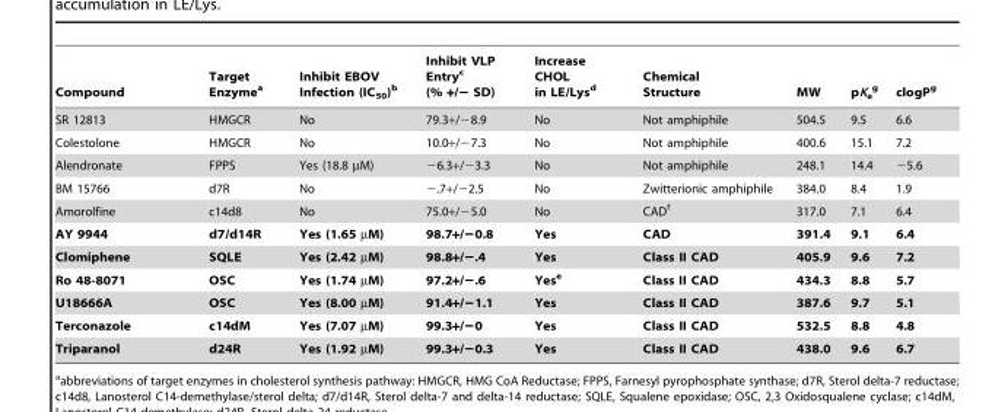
<table><thead><tr><td>Compound</td><td>Target Enzyme<sup>a</sup></td><td>Inhibit EBOV Infection (IC<sub>50</sub>)<sup>b</sup></td><td>Inhibit VLP Entry<sup>c</sup> (% +/− SD)</td><td>Increase CHOL in LE/Lys<sup>d</sup></td><td>Chemical Structure</td><td>MW</td><td>pK<sub>a</sub> g</td><td>clogP<sup>g</sup></td></tr></thead><tbody><tr><td>SR 12813</td><td>HMGCR</td><td>No</td><td>79.3+/−8.9</td><td>No</td><td>Not amphiphile</td><td>504.5</td><td>9.5</td><td>6.6</td></tr><tr><td>Colestolone</td><td>HMGCR</td><td>No</td><td>10.0+/−7.3</td><td>No</td><td>Not amphiphile</td><td>400.6</td><td>15.1</td><td>7.2</td></tr><tr><td>Alendronate</td><td>FPPS</td><td>Yes (18.8 µM)</td><td>−6.3+/−3.3</td><td>No</td><td>Not amphiphile</td><td>248.1</td><td>14.4</td><td>−5.6</td></tr><tr><td>BM 15766</td><td>d7R</td><td>No</td><td>−.7+/−2.5</td><td>No</td><td>Zwitterionic amphiphile</td><td>384.0</td><td>8.4</td><td>1.9</td></tr><tr><td>Amorolfine</td><td>c14d8</td><td>No</td><td>75.0+/−5.0</td><td>No</td><td>CAD<sup>f</sup></td><td>317.0</td><td>7.1</td><td>6.4</td></tr><tr><td>AY 9944</td><td>d7/d14R</td><td>Yes (1.65 µM)</td><td>98.7+/−0.8</td><td>Yes</td><td>CAD</td><td>391.4</td><td>9.1</td><td>6.4</td></tr><tr><td>Clomiphene</td><td>SQLE</td><td>Yes (2.42 µM)</td><td>98.8+/−.4</td><td>Yes</td><td>Class II CAD</td><td>405.9</td><td>9.6</td><td>7.2</td></tr><tr><td>Ro 48-8071</td><td>OSC</td><td>Yes (1.74 µM)</td><td>97.2+/−.6</td><td>Yese</td><td>Class II CAD</td><td>434.3</td><td>8.8</td><td>5.7</td></tr><tr><td>U18666A</td><td>OSC</td><td>Yes (8.00 µM)</td><td>91.4+/−1.1</td><td>Yes</td><td>Class II CAD</td><td>387.6</td><td>9.7</td><td>5.1</td></tr><tr><td>Terconazole</td><td>c14dM</td><td>Yes (7.07 µM)</td><td>99.3+/−0</td><td>Yes</td><td>Class II CAD</td><td>532.5</td><td>8.8</td><td>4.8</td></tr><tr><td>Triparanol</td><td>d24R</td><td>Yes (1.92 µM)</td><td>99.3+/−0.3</td><td>Yes</td><td>Class II CAD</td><td>438.0</td><td>9.6</td><td>6.7</td></tr></tbody></table>